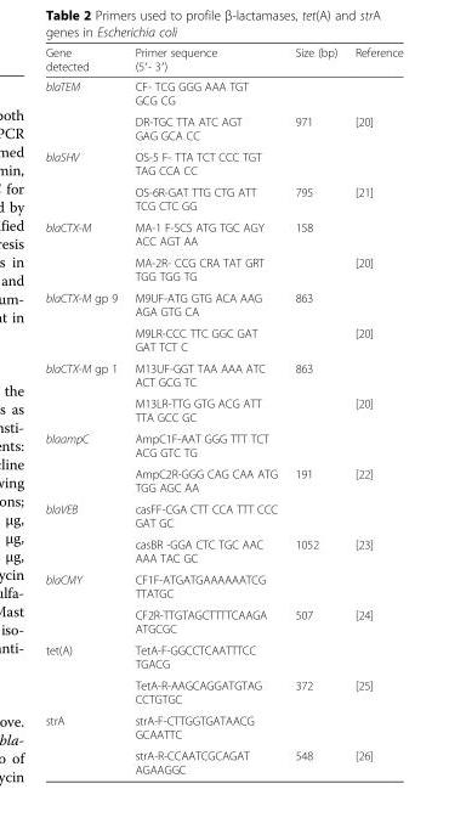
<table><thead><tr><td>Gene detected</td><td>Primer sequence (5′- 3′)</td><td>Size (bp)</td><td>Reference</td></tr></thead><tbody><tr><td rowspan="2">blaTEM</td><td>CF- TCG GGG AAA TGT GCG CG</td><td></td><td></td></tr><tr><td>DR-TGC TTA ATC AGT GAG GCA CC</td><td>971</td><td>[20]</td></tr><tr><td rowspan="2">blaSHV</td><td>OS-5 F- TTA TCT CCC TGT TAG CCA CC</td><td></td><td></td></tr><tr><td>OS-6R-GAT TTG CTG ATT TCG CTC GG</td><td>795</td><td>[21]</td></tr><tr><td rowspan="2">blaCTX-M</td><td>MA-1 F-SCS ATG TGC AGY ACC AGT AA</td><td>158</td><td></td></tr><tr><td>MA-2R- CCG CRA TAT GRT TGG TGG TG</td><td></td><td>[20]</td></tr><tr><td rowspan="2">blaCTX-M gp 9</td><td>M9UF-ATG GTG ACA AAG AGA GTG CA</td><td>863</td><td></td></tr><tr><td>M9LR-CCC TTC GGC GAT GAT TCT C</td><td></td><td>[20]</td></tr><tr><td rowspan="2">blaCTX-M gp 1</td><td>M13UF-GGT TAA AAA ATC ACT GCG TC</td><td>863</td><td></td></tr><tr><td>M13LR-TTG GTG ACG ATT TTA GCC GC</td><td></td><td>[20]</td></tr><tr><td rowspan="2">blaampC</td><td>AmpC1F-AAT GGG TTT TCT ACG GTC TG</td><td></td><td></td></tr><tr><td>AmpC2R-GGG CAG CAA ATG TGG AGC AA</td><td>191</td><td>[22]</td></tr><tr><td rowspan="2">blaVEB</td><td>casFF-CGA CTT CCA TTT CCC GAT GC</td><td></td><td></td></tr><tr><td>casBR -GGA CTC TGC AAC AAA TAC GC</td><td>1052</td><td>[23]</td></tr><tr><td rowspan="2">blaCMY</td><td>CF1F-ATGATGAAAAAATCG TTATGC</td><td></td><td></td></tr><tr><td>CF2R-TTGTAGCTTTTCAAGA ATGCGC</td><td>507</td><td>[24]</td></tr><tr><td rowspan="2">tet(A)</td><td>TetA-F-GGCCTCAATTTCC TGACG</td><td></td><td></td></tr><tr><td>TetA-R-AAGCAGGATGTAG CCTGTGC</td><td>372</td><td>[25]</td></tr><tr><td rowspan="2">strA</td><td>strA-F-CTTGGTGATAACG GCAATTC</td><td></td><td></td></tr><tr><td>strA-R-CCAATCGCAGAT AGAAGGC</td><td>548</td><td>[26]</td></tr></tbody></table>